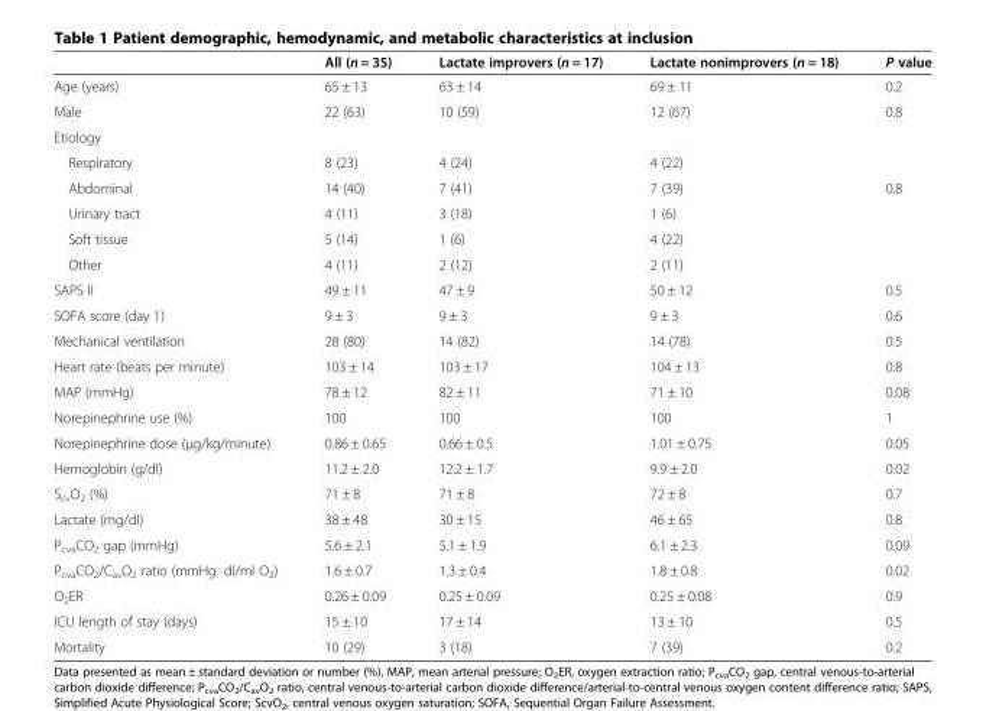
<table><thead><tr><td></td><td>All (n = 35)</td><td>Lactate improvers (n = 17)</td><td>Lactate nonimprovers (n = 18)</td><td>P value</td></tr></thead><tbody><tr><td>Age (years)</td><td>65 ± 13</td><td>63 ± 14</td><td>69 ± 11</td><td>0.2</td></tr><tr><td>Male</td><td>22 (63)</td><td>10 (59)</td><td>12 (67)</td><td>0.8</td></tr><tr><td colspan="5">Etiology</td></tr><tr><td>Respiratory</td><td>8 (23)</td><td>4 (24)</td><td>4 (22)</td><td></td></tr><tr><td>Abdominal</td><td>14 (40)</td><td>7 (41)</td><td>7 (39)</td><td rowspan="4">0.8</td></tr><tr><td>Urinary tract</td><td>4 (11)</td><td>3 (18)</td><td>1 (6)</td></tr><tr><td>Soft tissue</td><td>5 (14)</td><td>1 (6)</td><td>4 (22)</td></tr><tr><td>Other</td><td>4 (11)</td><td>2 (12)</td><td>2 (11)</td></tr><tr><td>SAPS II</td><td>49 ± 11</td><td>47 ± 9</td><td>50 ± 12</td><td>0.5</td></tr><tr><td>SOFA score (day 1)</td><td>9 ± 3</td><td>9 ± 3</td><td>9 ± 3</td><td>0.6</td></tr><tr><td>Mechanical ventilation</td><td>28 (80)</td><td>14 (82)</td><td>14 (78)</td><td>0.5</td></tr><tr><td>Heart rate (beats per minute)</td><td>103 ± 14</td><td>103 ± 17</td><td>104 ± 13</td><td>0.8</td></tr><tr><td>MAP (mmHg)</td><td>78 ± 12</td><td>82 ± 11</td><td>71 ± 10</td><td>0.08</td></tr><tr><td>Norepinephrine use (%)</td><td>100</td><td>100</td><td>100</td><td>1</td></tr><tr><td>Norepinephrine dose (μg/kg/minute)</td><td>0.86 ± 0.65</td><td>0.66 ± 0.5</td><td>1.01 ± 0.75</td><td>0.05</td></tr><tr><td>Hemoglobin (g/dl)</td><td>11.2 ± 2.0</td><td>12.2 ± 1.7</td><td>9.9 ± 2.0</td><td>0.02</td></tr><tr><td>S<sub>cv</sub>O<sub>2</sub> (%)</td><td>71 ± 8</td><td>71 ± 8</td><td>72 ± 8</td><td>0.7</td></tr><tr><td>Lactate (mg/dl)</td><td>38 ± 48</td><td>30 ± 15</td><td>46 ± 65</td><td>0.8</td></tr><tr><td>P<sub>cva</sub>CO<sub>2</sub> gap (mmHg)</td><td>5.6 ± 2.1</td><td>5.1 ± 1.9</td><td>6.1 ± 2.3</td><td>0.09</td></tr><tr><td>P<sub>cva</sub>CO<sub>2</sub>/C<sub>av</sub>O<sub>2</sub> ratio (mmHg · dl/ml O<sub>2</sub>)</td><td>1.6 ± 0.7</td><td>1.3 ± 0.4</td><td>1.8 ± 0.8</td><td>0.02</td></tr><tr><td>O<sub>2</sub>ER</td><td>0.26 ± 0.09</td><td>0.25 ± 0.09</td><td>0.25 ± 0.08</td><td>0.9</td></tr><tr><td>ICU length of stay (days)</td><td>15 ± 10</td><td>17 ± 14</td><td>13 ± 10</td><td>0.5</td></tr><tr><td>Mortality</td><td>10 (29)</td><td>3 (18)</td><td>7 (39)</td><td>0.2</td></tr></tbody></table>